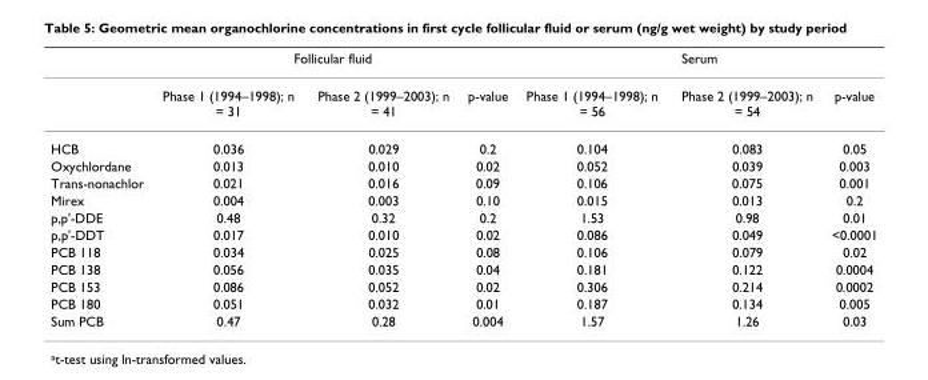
<table><thead><tr><td rowspan="2"></td><td colspan="3">Follicular fluid</td><td colspan="3">Serum</td></tr><tr><td>Phase 1 (1994–1998); n = 31</td><td>Phase 2 (1999–2003); n = 41</td><td>p-value</td><td>Phase 1 (1994–1998); n = 56</td><td>Phase 2 (1999–2003); n = 54</td><td>p-value</td></tr></thead><tbody><tr><td>HCB</td><td>0.036</td><td>0.029</td><td>0.2</td><td>0.104</td><td>0.083</td><td>0.05</td></tr><tr><td>Oxychlordane</td><td>0.013</td><td>0.010</td><td>0.02</td><td>0.052</td><td>0.039</td><td>0.003</td></tr><tr><td>Trans-nonachlor</td><td>0.021</td><td>0.016</td><td>0.09</td><td>0.106</td><td>0.075</td><td>0.001</td></tr><tr><td>Mirex</td><td>0.004</td><td>0.003</td><td>0.10</td><td>0.015</td><td>0.013</td><td>0.2</td></tr><tr><td>p,p&#x27;-DDE</td><td>0.48</td><td>0.32</td><td>0.2</td><td>1.53</td><td>0.98</td><td>0.01</td></tr><tr><td>p,p&#x27;-DDT</td><td>0.017</td><td>0.010</td><td>0.02</td><td>0.086</td><td>0.049</td><td>&lt;0.0001</td></tr><tr><td>PCB 118</td><td>0.034</td><td>0.025</td><td>0.08</td><td>0.106</td><td>0.079</td><td>0.02</td></tr><tr><td>PCB 138</td><td>0.056</td><td>0.035</td><td>0.04</td><td>0.181</td><td>0.122</td><td>0.0004</td></tr><tr><td>PCB 153</td><td>0.086</td><td>0.052</td><td>0.02</td><td>0.306</td><td>0.214</td><td>0.0002</td></tr><tr><td>PCB 180</td><td>0.051</td><td>0.032</td><td>0.01</td><td>0.187</td><td>0.134</td><td>0.005</td></tr><tr><td>Sum PCB</td><td>0.47</td><td>0.28</td><td>0.004</td><td>1.57</td><td>1.26</td><td>0.03</td></tr></tbody></table>